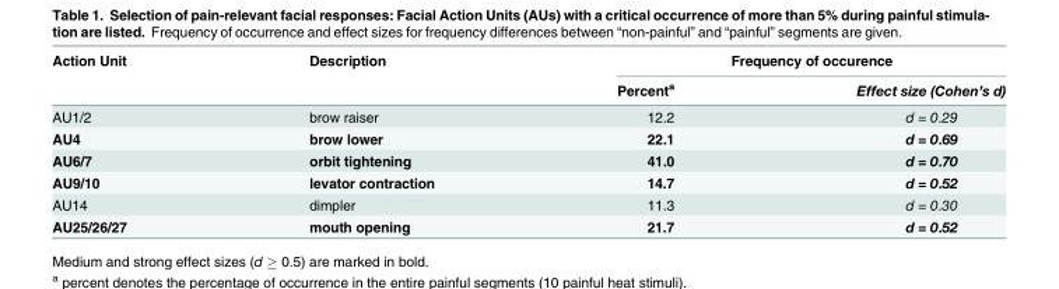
<table><thead><tr><td rowspan="2">Action Unit</td><td rowspan="2">Description</td><td colspan="2">Frequency of occurence</td></tr><tr><td>Percent<sup>a</sup></td><td>Effect size (Cohen’s d)</td></tr></thead><tbody><tr><td>AU1/2</td><td>brow raiser</td><td>12.2</td><td>d = 0.29</td></tr><tr><td>AU4</td><td>brow lower</td><td>22.1</td><td>d = 0.69</td></tr><tr><td>AU6/7</td><td>orbit tightening</td><td>41.0</td><td>d = 0.70</td></tr><tr><td>AU9/10</td><td>levator contraction</td><td>14.7</td><td>d = 0.52</td></tr><tr><td>AU14</td><td>dimpler</td><td>11.3</td><td>d = 0.30</td></tr><tr><td>AU25/26/27</td><td>mouth opening</td><td>21.7</td><td>d = 0.52</td></tr></tbody></table>